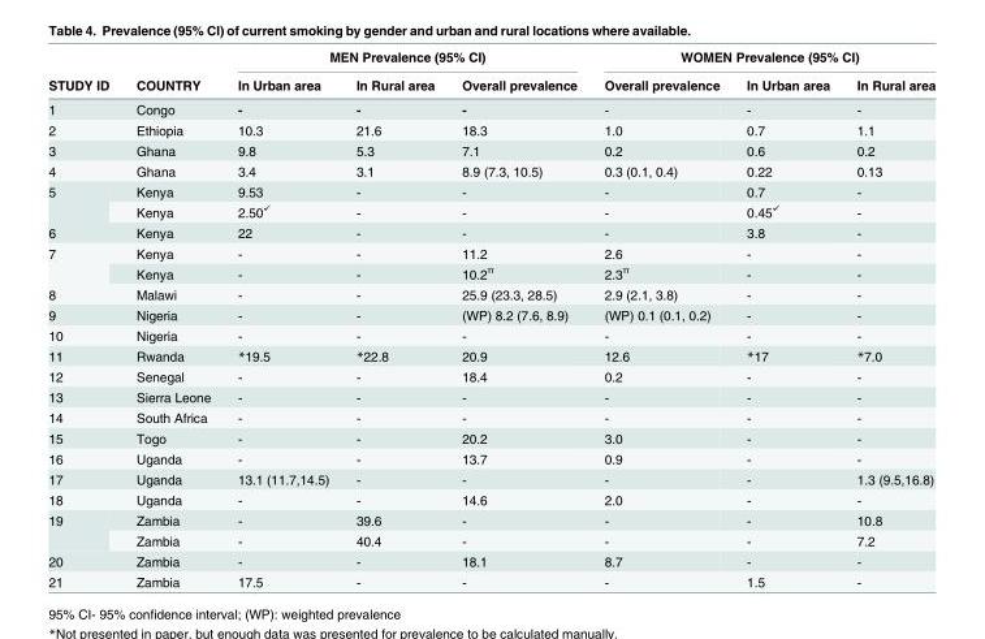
<table><thead><tr><td rowspan="2">STUDY ID</td><td rowspan="2">COUNTRY</td><td colspan="3">MEN Prevalence (95% CI)</td><td colspan="3">WOMEN Prevalence (95% CI)</td></tr><tr><td>In Urban area</td><td>In Rural area</td><td>Overall prevalence</td><td>Overall prevalence</td><td>In Urban area</td><td>In Rural area</td></tr></thead><tbody><tr><td>1</td><td>Congo</td><td>-</td><td>-</td><td>-</td><td>-</td><td>-</td><td>-</td></tr><tr><td>2</td><td>Ethiopia</td><td>10.3</td><td>21.6</td><td>18.3</td><td>1.0</td><td>0.7</td><td>1.1</td></tr><tr><td>3</td><td>Ghana</td><td>9.8</td><td>5.3</td><td>7.1</td><td>0.2</td><td>0.6</td><td>0.2</td></tr><tr><td>4</td><td>Ghana</td><td>3.4</td><td>3.1</td><td>8.9 (7.3, 10.5)</td><td>0.3 (0.1, 0.4)</td><td>0.22</td><td>0.13</td></tr><tr><td rowspan="2">5</td><td>Kenya</td><td>9.53</td><td>-</td><td>-</td><td>-</td><td>0.7</td><td>-</td></tr><tr><td>Kenya</td><td>2.50<sup>✓</sup></td><td>-</td><td>-</td><td>-</td><td>0.45<sup>✓</sup></td><td>-</td></tr><tr><td>6</td><td>Kenya</td><td>22</td><td>-</td><td>-</td><td>-</td><td>3.8</td><td>-</td></tr><tr><td rowspan="2">7</td><td>Kenya</td><td>-</td><td>-</td><td>11.2</td><td>2.6</td><td>-</td><td>-</td></tr><tr><td>Kenya</td><td>-</td><td>-</td><td>10.2<sup>π</sup></td><td>2.3<sup>π</sup></td><td>-</td><td>-</td></tr><tr><td>8</td><td>Malawi</td><td>-</td><td>-</td><td>25.9 (23.3, 28.5)</td><td>2.9 (2.1, 3.8)</td><td>-</td><td>-</td></tr><tr><td>9</td><td>Nigeria</td><td>-</td><td>-</td><td>(WP) 8.2 (7.6, 8.9)</td><td>(WP) 0.1 (0.1, 0.2)</td><td>-</td><td>-</td></tr><tr><td>10</td><td>Nigeria</td><td>-</td><td>-</td><td>-</td><td>-</td><td>-</td><td>-</td></tr><tr><td>11</td><td>Rwanda</td><td>*19.5</td><td>*22.8</td><td>20.9</td><td>12.6</td><td>*17</td><td>*7.0</td></tr><tr><td>12</td><td>Senegal</td><td>-</td><td>-</td><td>18.4</td><td>0.2</td><td>-</td><td>-</td></tr><tr><td>13</td><td>Sierra Leone</td><td>-</td><td>-</td><td>-</td><td>-</td><td>-</td><td>-</td></tr><tr><td>14</td><td>South Africa</td><td>-</td><td>-</td><td>-</td><td>-</td><td>-</td><td>-</td></tr><tr><td>15</td><td>Togo</td><td>-</td><td>-</td><td>20.2</td><td>3.0</td><td>-</td><td>-</td></tr><tr><td>16</td><td>Uganda</td><td>-</td><td>-</td><td>13.7</td><td>0.9</td><td>-</td><td>-</td></tr><tr><td>17</td><td>Uganda</td><td>13.1 (11.7,14.5)</td><td>-</td><td>-</td><td>-</td><td>-</td><td>1.3 (9.5,16.8)</td></tr><tr><td>18</td><td>Uganda</td><td>-</td><td>-</td><td>14.6</td><td>2.0</td><td>-</td><td>-</td></tr><tr><td rowspan="2">19</td><td>Zambia</td><td>-</td><td>39.6</td><td>-</td><td>-</td><td>-</td><td>10.8</td></tr><tr><td>Zambia</td><td>-</td><td>40.4</td><td>-</td><td>-</td><td>-</td><td>7.2</td></tr><tr><td>20</td><td>Zambia</td><td>-</td><td>-</td><td>18.1</td><td>8.7</td><td>-</td><td>-</td></tr><tr><td>21</td><td>Zambia</td><td>17.5</td><td>-</td><td>-</td><td>-</td><td>1.5</td><td>-</td></tr></tbody></table>